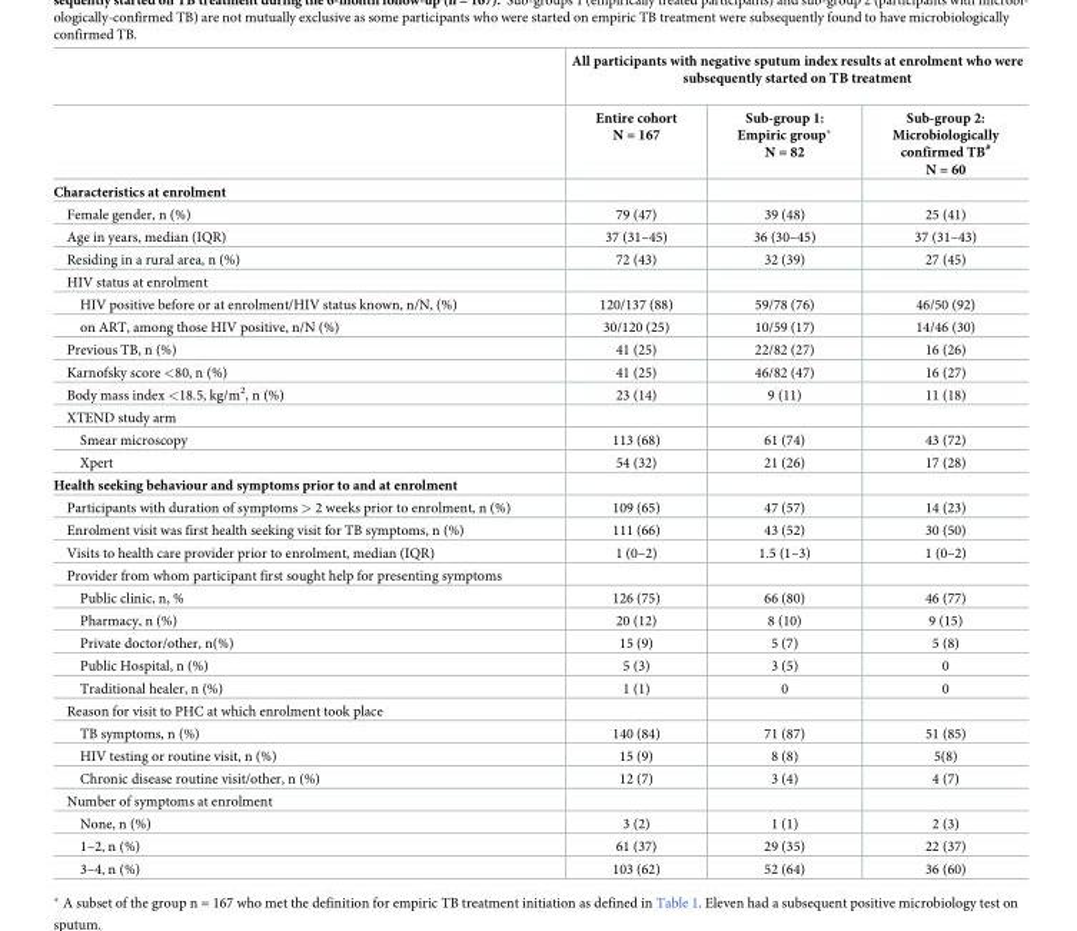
<table><thead><tr><td rowspan="2"></td><td colspan="3">All participants with negative sputum index results at enrolment who were subsequently started on TB treatment</td></tr><tr><td>Entire cohort N = 167</td><td>Sub-group 1: Empiric group* N = 82</td><td>Sub-group 2: Microbiologically confirmed TB<sup>#</sup> N = 60</td></tr></thead><tbody><tr><td colspan="4">Characteristics at enrolment</td></tr><tr><td>Female gender, n (%)</td><td>79 (47)</td><td>39 (48)</td><td>25 (41)</td></tr><tr><td>Age in years, median (IQR)</td><td>37 (31–45)</td><td>36 (30–45)</td><td>37 (31–43)</td></tr><tr><td>Residing in a rural area, n (%)</td><td>72 (43)</td><td>32 (39)</td><td>27 (45)</td></tr><tr><td colspan="4">HIV status at enrolment</td></tr><tr><td>HIV positive before or at enrolment/HIV status known, n/N, (%)</td><td>120/137 (88)</td><td>59/78 (76)</td><td>46/50 (92)</td></tr><tr><td>on ART, among those HIV positive, n/N (%)</td><td>30/120 (25)</td><td>10/59 (17)</td><td>14/46 (30)</td></tr><tr><td>Previous TB, n (%)</td><td>41 (25)</td><td>22/82 (27)</td><td>16 (26)</td></tr><tr><td>Karnofsky score &lt;80, n (%)</td><td>41 (25)</td><td>46/82 (47)</td><td>16 (27)</td></tr><tr><td>Body mass index &lt;18.5, kg/m<sup>2</sup>, n (%)</td><td>23 (14)</td><td>9 (11)</td><td>11 (18)</td></tr><tr><td colspan="4">XTEND study arm</td></tr><tr><td>Smear microscopy</td><td>113 (68)</td><td>61 (74)</td><td>43 (72)</td></tr><tr><td>Xpert</td><td>54 (32)</td><td>21 (26)</td><td>17 (28)</td></tr><tr><td colspan="4">Health seeking behaviour and symptoms prior to and at enrolment</td></tr><tr><td>Participants with duration of symptoms &gt; 2 weeks prior to enrolment, n (%)</td><td>109 (65)</td><td>47 (57)</td><td>14 (23)</td></tr><tr><td>Enrolment visit was first health seeking visit for TB symptoms, n (%)</td><td>111 (66)</td><td>43 (52)</td><td>30 (50)</td></tr><tr><td>Visits to health care provider prior to enrolment, median (IQR)</td><td>1 (0–2)</td><td>1.5 (1–3)</td><td>1 (0–2)</td></tr><tr><td colspan="4">Provider from whom participant first sought help for presenting symptoms</td></tr><tr><td>Public clinic, n, %</td><td>126 (75)</td><td>66 (80)</td><td>46 (77)</td></tr><tr><td>Pharmacy, n (%)</td><td>20 (12)</td><td>8 (10)</td><td>9 (15)</td></tr><tr><td>Private doctor/other, n(%)</td><td>15 (9)</td><td>5 (7)</td><td>5 (8)</td></tr><tr><td>Public Hospital, n (%)</td><td>5 (3)</td><td>3 (5)</td><td>0</td></tr><tr><td>Traditional healer, n (%)</td><td>1 (1)</td><td>0</td><td>0</td></tr><tr><td colspan="4">Reason for visit to PHC at which enrolment took place</td></tr><tr><td>TB symptoms, n (%)</td><td>140 (84)</td><td>71 (87)</td><td>51 (85)</td></tr><tr><td>HIV testing or routine visit, n (%)</td><td>15 (9)</td><td>8 (8)</td><td>5(8)</td></tr><tr><td>Chronic disease routine visit/other, n (%)</td><td>12 (7)</td><td>3 (4)</td><td>4 (7)</td></tr><tr><td colspan="4">Number of symptoms at enrolment</td></tr><tr><td>None, n (%)</td><td>3 (2)</td><td>1 (1)</td><td>2 (3)</td></tr><tr><td>1–2, n (%)</td><td>61 (37)</td><td>29 (35)</td><td>22 (37)</td></tr><tr><td>3–4, n (%)</td><td>103 (62)</td><td>52 (64)</td><td>36 (60)</td></tr></tbody></table>